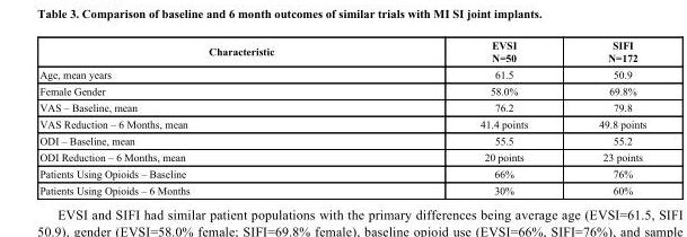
<table><thead><tr><td>Characteristic</td><td>EVSI N=50</td><td>SIFI N=172</td></tr></thead><tbody><tr><td>Age, mean years</td><td>61.5</td><td>50.9</td></tr><tr><td>Female Gender</td><td>58.0%</td><td>69.8%</td></tr><tr><td>VAS – Baseline, mean</td><td>76.2</td><td>79.8</td></tr><tr><td>VAS Reduction – 6 Months, mean</td><td>41.4 points</td><td>49.8 points</td></tr><tr><td>ODI – Baseline, mean</td><td>55.5</td><td>55.2</td></tr><tr><td>ODI Reduction – 6 Months, mean</td><td>20 points</td><td>23 points</td></tr><tr><td>Patients Using Opioids – Baseline</td><td>66%</td><td>76%</td></tr><tr><td>Patients Using Opioids – 6 Months</td><td>30%</td><td>60%</td></tr></tbody></table>